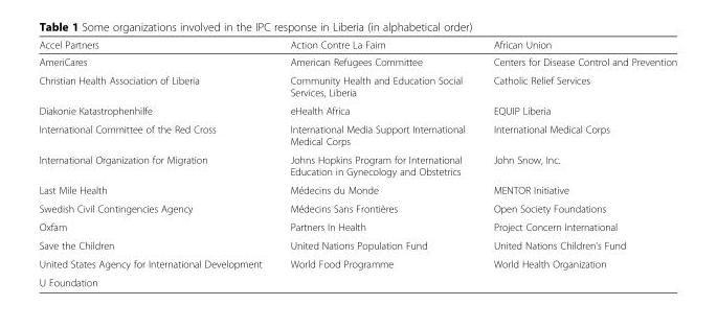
<table><thead><tr><td>Accel Partners</td><td>Action Contre La Faim</td><td>African Union</td></tr></thead><tbody><tr><td>AmeriCares</td><td>American Refugees Committee</td><td>Centers for Disease Control and Prevention</td></tr><tr><td>Christian Health Association of Liberia</td><td>Community Health and Education Social Services, Liberia</td><td>Catholic Relief Services</td></tr><tr><td>Diakonie Katastrophenhilfe</td><td>eHealth Africa</td><td>EQUIP Liberia</td></tr><tr><td>International Committee of the Red Cross</td><td>International Media Support International Medical Corps</td><td>International Medical Corps</td></tr><tr><td>International Organization for Migration</td><td>Johns Hopkins Program for International Education in Gynecology and Obstetrics</td><td>John Snow, Inc.</td></tr><tr><td>Last Mile Health</td><td>Médecins du Monde</td><td>MENTOR Initiative</td></tr><tr><td>Swedish Civil Contingencies Agency</td><td>Médecins Sans Frontières</td><td>Open Society Foundations</td></tr><tr><td>Oxfam</td><td>Partners In Health</td><td>Project Concern International</td></tr><tr><td>Save the Children</td><td>United Nations Population Fund</td><td>United Nations Children’s Fund</td></tr><tr><td>United States Agency for International Development</td><td>World Food Programme</td><td>World Health Organization</td></tr><tr><td>U Foundation</td><td></td><td></td></tr></tbody></table>